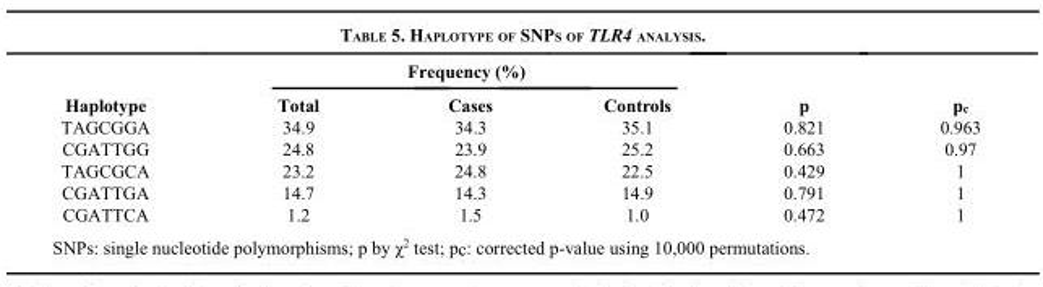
<table><thead><tr><td rowspan="2">Haplotype</td><td colspan="3">Frequency (%)</td><td rowspan="2">p</td><td rowspan="2">p<sub>c</sub></td></tr><tr><td>Total</td><td>Cases</td><td>Controls</td></tr></thead><tbody><tr><td>TAGCGGA</td><td>34.9</td><td>34.3</td><td>35.1</td><td>0.821</td><td>0.963</td></tr><tr><td>CGATTGG</td><td>24.8</td><td>23.9</td><td>25.2</td><td>0.663</td><td>0.97</td></tr><tr><td>TAGCGCA</td><td>23.2</td><td>24.8</td><td>22.5</td><td>0.429</td><td>1</td></tr><tr><td>CGATTGA</td><td>14.7</td><td>14.3</td><td>14.9</td><td>0.791</td><td>1</td></tr><tr><td>CGATTCA</td><td>1.2</td><td>1.5</td><td>1.0</td><td>0.472</td><td>1</td></tr></tbody></table>